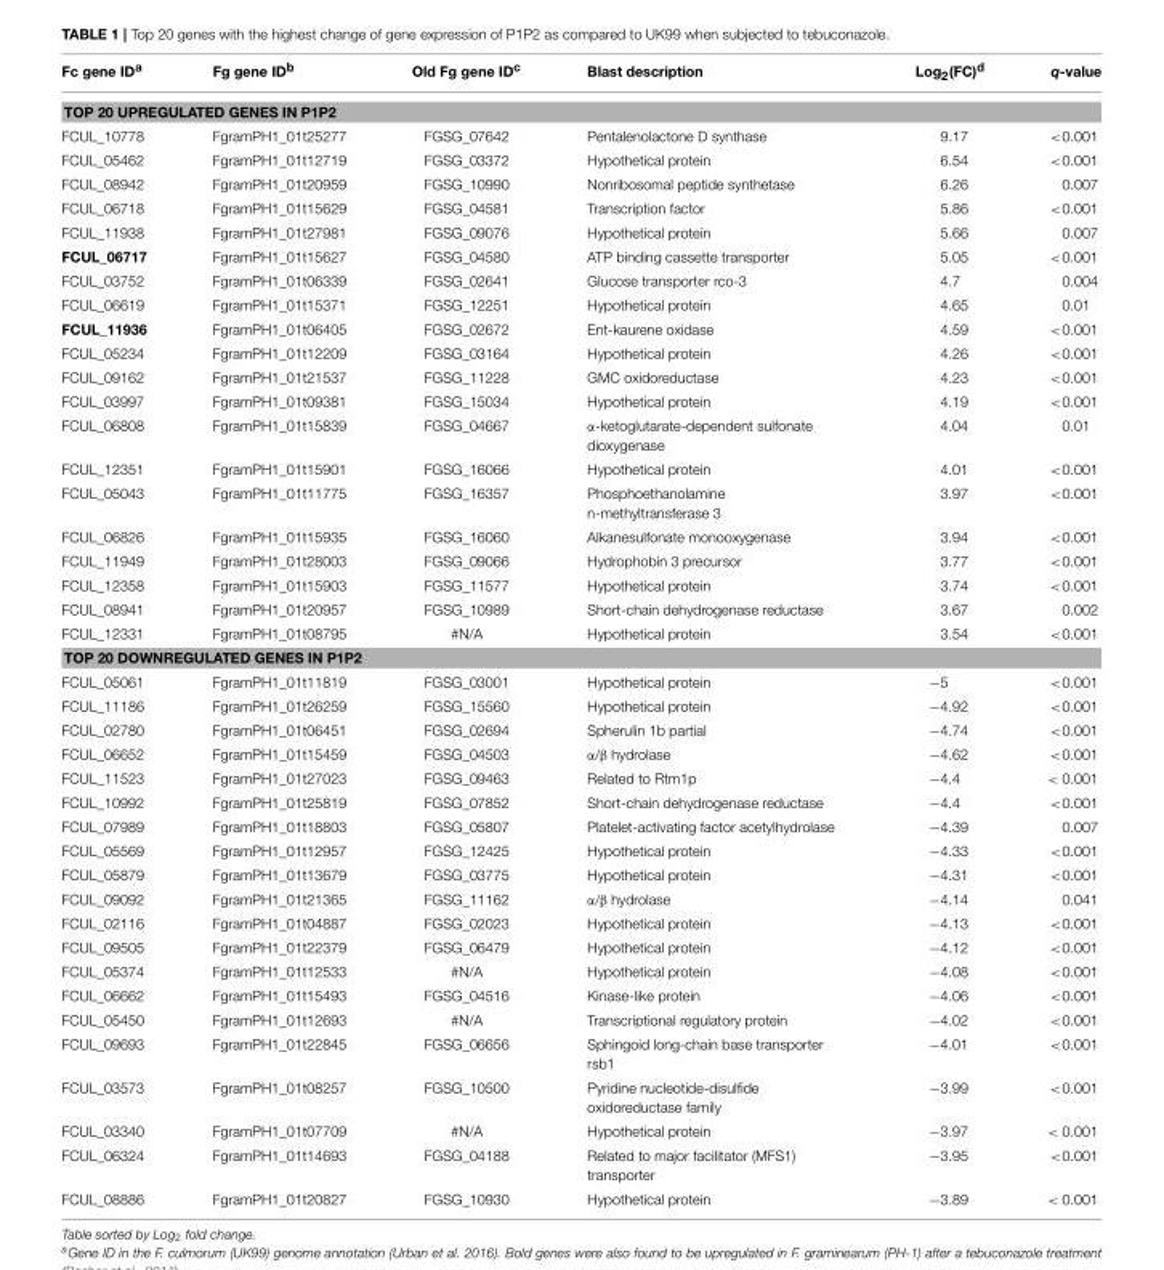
<table><thead><tr><td>Fc gene ID<sup>a</sup></td><td>Fg gene ID<sup>b</sup></td><td>Old Fg gene ID<sup>c</sup></td><td>Blast description</td><td>Log<sub>2</sub>(FC)<sup>d</sup></td><td>q-value</td></tr></thead><tbody><tr><td colspan="6">TOP 20 UPREGULATED GENES IN P1P2</td></tr><tr><td>FCUL_10778</td><td>FgramPH1_01t25277</td><td>FGSG_07642</td><td>Pentalenolactone D synthase</td><td>9.17</td><td>&lt;0.001</td></tr><tr><td>FCUL_05462</td><td>FgramPH1_01t12719</td><td>FGSG_03372</td><td>Hypothetical protein</td><td>6.54</td><td>&lt;0.001</td></tr><tr><td>FCUL_08942</td><td>FgramPH1_01t20959</td><td>FGSG_10990</td><td>Nonribosomal peptide synthetase</td><td>6.26</td><td>0.007</td></tr><tr><td>FCUL_06718</td><td>FgramPH1_01t15629</td><td>FGSG_04581</td><td>Transcription factor</td><td>5.86</td><td>&lt;0.001</td></tr><tr><td>FCUL_11938</td><td>FgramPH1_01t27981</td><td>FGSG_09076</td><td>Hypothetical protein</td><td>5.66</td><td>0.007</td></tr><tr><td>FCUL_06717</td><td>FgramPH1_01t15627</td><td>FGSG_04580</td><td>ATP binding cassette transporter</td><td>5.05</td><td>&lt;0.001</td></tr><tr><td>FCUL_03752</td><td>FgramPH1_01t06339</td><td>FGSG_02641</td><td>Glucose transporter rco-3</td><td>4.7</td><td>0.004</td></tr><tr><td>FCUL_06619</td><td>FgramPH1_01t15371</td><td>FGSG_12251</td><td>Hypothetical protein</td><td>4.65</td><td>0.01</td></tr><tr><td>FCUL_11936</td><td>FgramPH1_01t06405</td><td>FGSG_02672</td><td>Ent-kaurene oxidase</td><td>4.59</td><td>&lt;0.001</td></tr><tr><td>FCUL_05234</td><td>FgramPH1_01t12209</td><td>FGSG_03164</td><td>Hypothetical protein</td><td>4.26</td><td>&lt;0.001</td></tr><tr><td>FCUL_09162</td><td>FgramPH1_01t21537</td><td>FGSG_11228</td><td>GMC oxidoreductase</td><td>4.23</td><td>&lt;0.001</td></tr><tr><td>FCUL_03997</td><td>FgramPH1_01t09381</td><td>FGSG_15034</td><td>Hypothetical protein</td><td>4.19</td><td>&lt;0.001</td></tr><tr><td>FCUL_06808</td><td>FgramPH1_01t15839</td><td>FGSG_04667</td><td>α-ketoglutarate-dependent sulfonate dioxygenase</td><td>4.04</td><td>0.01</td></tr><tr><td>FCUL_12351</td><td>FgramPH1_01t15901</td><td>FGSG_16066</td><td>Hypothetical protein</td><td>4.01</td><td>&lt;0.001</td></tr><tr><td>FCUL_05043</td><td>FgramPH1_01t11775</td><td>FGSG_16357</td><td>Phosphoethanolamine n-methyltransferase 3</td><td>3.97</td><td>&lt;0.001</td></tr><tr><td>FCUL_06826</td><td>FgramPH1_01t15935</td><td>FGSG_16060</td><td>Alkanesulfonate monooxygenase</td><td>3.94</td><td>&lt;0.001</td></tr><tr><td>FCUL_11949</td><td>FgramPH1_01t28003</td><td>FGSG_09066</td><td>Hydrophobin 3 precursor</td><td>3.77</td><td>&lt;0.001</td></tr><tr><td>FCUL_12358</td><td>FgramPH1_01t15903</td><td>FGSG_11577</td><td>Hypothetical protein</td><td>3.74</td><td>&lt;0.001</td></tr><tr><td>FCUL_08941</td><td>FgramPH1_01t20957</td><td>FGSG_10989</td><td>Short-chain dehydrogenase reductase</td><td>3.67</td><td>0.002</td></tr><tr><td>FCUL_12331</td><td>FgramPH1_01t08795</td><td>#N/A</td><td>Hypothetical protein</td><td>3.54</td><td>&lt;0.001</td></tr><tr><td colspan="6">TOP 20 DOWNREGULATED GENES IN P1P2</td></tr><tr><td>FCUL_05061</td><td>FgramPH1_01t11819</td><td>FGSG_03001</td><td>Hypothetical protein</td><td>−5</td><td>&lt;0.001</td></tr><tr><td>FCUL_11186</td><td>FgramPH1_01t26259</td><td>FGSG_15560</td><td>Hypothetical protein</td><td>−4.92</td><td>&lt;0.001</td></tr><tr><td>FCUL_02780</td><td>FgramPH1_01t06451</td><td>FGSG_02694</td><td>Spherulin 1b partial</td><td>−4.74</td><td>&lt;0.001</td></tr><tr><td>FCUL_06652</td><td>FgramPH1_01t15459</td><td>FGSG_04503</td><td>α/β hydrolase</td><td>−4.62</td><td>&lt;0.001</td></tr><tr><td>FCUL_11523</td><td>FgramPH1_01t27023</td><td>FGSG_09463</td><td>Related to Rtm1p</td><td>−4.4</td><td>&lt; 0.001</td></tr><tr><td>FCUL_10992</td><td>FgramPH1_01t25819</td><td>FGSG_07852</td><td>Short-chain dehydrogenase reductase</td><td>−4.4</td><td>&lt;0.001</td></tr><tr><td>FCUL_07989</td><td>FgramPH1_01t18803</td><td>FGSG_05807</td><td>Platelet-activating factor acetylhydrolase</td><td>−4.39</td><td>0.007</td></tr><tr><td>FCUL_05569</td><td>FgramPH1_01t12957</td><td>FGSG_12425</td><td>Hypothetical protein</td><td>−4.33</td><td>&lt;0.001</td></tr><tr><td>FCUL_05879</td><td>FgramPH1_01t13679</td><td>FGSG_03775</td><td>Hypothetical protein</td><td>−4.31</td><td>&lt;0.001</td></tr><tr><td>FCUL_09092</td><td>FgramPH1_01t21365</td><td>FGSG_11162</td><td>α/β hydrolase</td><td>−4.14</td><td>0.041</td></tr><tr><td>FCUL_02116</td><td>FgramPH1_01t04887</td><td>FGSG_02023</td><td>Hypothetical protein</td><td>−4.13</td><td>&lt;0.001</td></tr><tr><td>FCUL_09505</td><td>FgramPH1_01t22379</td><td>FGSG_06479</td><td>Hypothetical protein</td><td>−4.12</td><td>&lt;0.001</td></tr><tr><td>FCUL_05374</td><td>FgramPH1_01t12533</td><td>#N/A</td><td>Hypothetical protein</td><td>−4.08</td><td>&lt;0.001</td></tr><tr><td>FCUL_06662</td><td>FgramPH1_01t15493</td><td>FGSG_04516</td><td>Kinase-like protein</td><td>−4.06</td><td>&lt;0.001</td></tr><tr><td>FCUL_05450</td><td>FgramPH1_01t12693</td><td>#N/A</td><td>Transcriptional regulatory protein</td><td>−4.02</td><td>&lt;0.001</td></tr><tr><td>FCUL_09693</td><td>FgramPH1_01t22845</td><td>FGSG_06656</td><td>Sphingoid long-chain base transporter rsb1</td><td>−4.01</td><td>&lt;0.001</td></tr><tr><td>FCUL_03573</td><td>FgramPH1_01t08257</td><td>FGSG_10500</td><td>Pyridine nucleotide-disulfide oxidoreductase family</td><td>−3.99</td><td>&lt;0.001</td></tr><tr><td>FCUL_03340</td><td>FgramPH1_01t07709</td><td>#N/A</td><td>Hypothetical protein</td><td>−3.97</td><td>&lt; 0.001</td></tr><tr><td>FCUL_06324</td><td>FgramPH1_01t14693</td><td>FGSG_04188</td><td>Related to major facilitator (MFS1) transporter</td><td>−3.95</td><td>&lt;0.001</td></tr><tr><td>FCUL_08886</td><td>FgramPH1_01t20827</td><td>FGSG_10930</td><td>Hypothetical protein</td><td>−3.89</td><td>&lt; 0.001</td></tr></tbody></table>